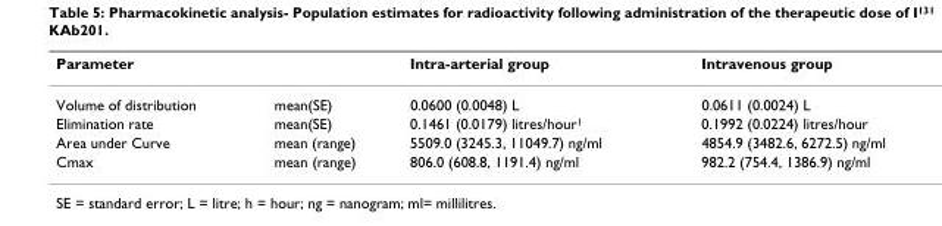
<table><thead><tr><td>Parameter</td><td></td><td>Intra-arterial group</td><td>Intravenous group</td></tr></thead><tbody><tr><td>Volume of distribution</td><td>mean(SE)</td><td>0.0600 (0.0048) L</td><td>0.0611 (0.0024) L</td></tr><tr><td>Elimination rate</td><td>mean(SE)</td><td>0.1461 (0.0179) litres/hour<sup>1</sup></td><td>0.1992 (0.0224) litres/hour</td></tr><tr><td>Area under Curve</td><td>mean (range)</td><td>5509.0 (3245.3, 11049.7) ng/ml</td><td>4854.9 (3482.6, 6272.5) ng/ml</td></tr><tr><td>Cmax</td><td>mean (range)</td><td>806.0 (608.8, 1191.4) ng/ml</td><td>982.2 (754.4, 1386.9) ng/ml</td></tr></tbody></table>